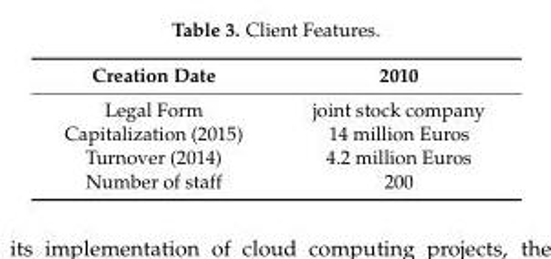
<table><thead><tr><td>Creation Date</td><td>2010</td></tr></thead><tbody><tr><td>Legal Form</td><td>joint stock company</td></tr><tr><td>Capitalization (2015)</td><td>14 million Euros</td></tr><tr><td>Turnover (2014)</td><td>4.2 million Euros</td></tr><tr><td>Number of staff</td><td>200</td></tr></tbody></table>